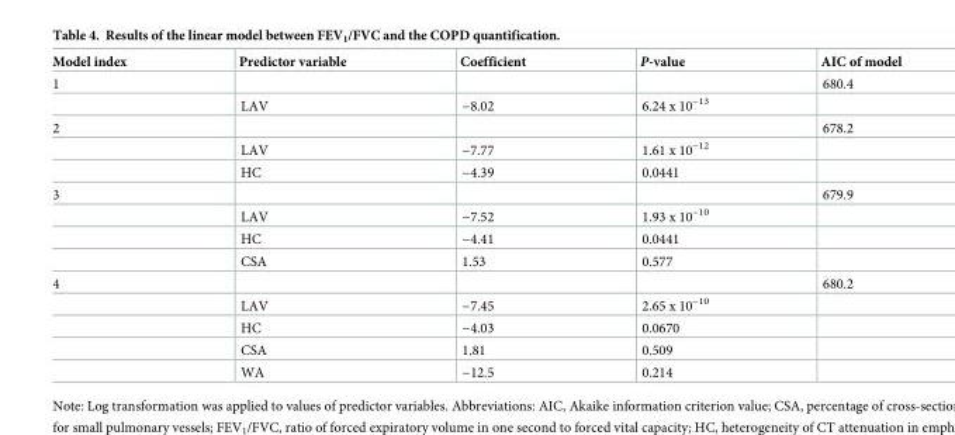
<table><thead><tr><td>Model index</td><td>Predictor variable</td><td>Coefficient</td><td>P-value</td><td>AIC of model</td></tr></thead><tbody><tr><td rowspan="2">1</td><td></td><td></td><td></td><td>680.4</td></tr><tr><td>LAV</td><td>−8.02</td><td>6.24 x 10<sup>−13</sup></td><td></td></tr><tr><td rowspan="3">2</td><td></td><td></td><td></td><td>678.2</td></tr><tr><td>LAV</td><td>−7.77</td><td>1.61 x 10<sup>−12</sup></td><td></td></tr><tr><td>HC</td><td>−4.39</td><td>0.0441</td><td></td></tr><tr><td rowspan="4">3</td><td></td><td></td><td></td><td>679.9</td></tr><tr><td>LAV</td><td>−7.52</td><td>1.93 x 10<sup>−10</sup></td><td></td></tr><tr><td>HC</td><td>−4.41</td><td>0.0441</td><td></td></tr><tr><td>CSA</td><td>1.53</td><td>0.577</td><td></td></tr><tr><td rowspan="5">4</td><td></td><td></td><td></td><td>680.2</td></tr><tr><td>LAV</td><td>−7.45</td><td>2.65 x 10<sup>−10</sup></td><td></td></tr><tr><td>HC</td><td>−4.03</td><td>0.0670</td><td></td></tr><tr><td>CSA</td><td>1.81</td><td>0.509</td><td></td></tr><tr><td>WA</td><td>−12.5</td><td>0.214</td><td></td></tr></tbody></table>